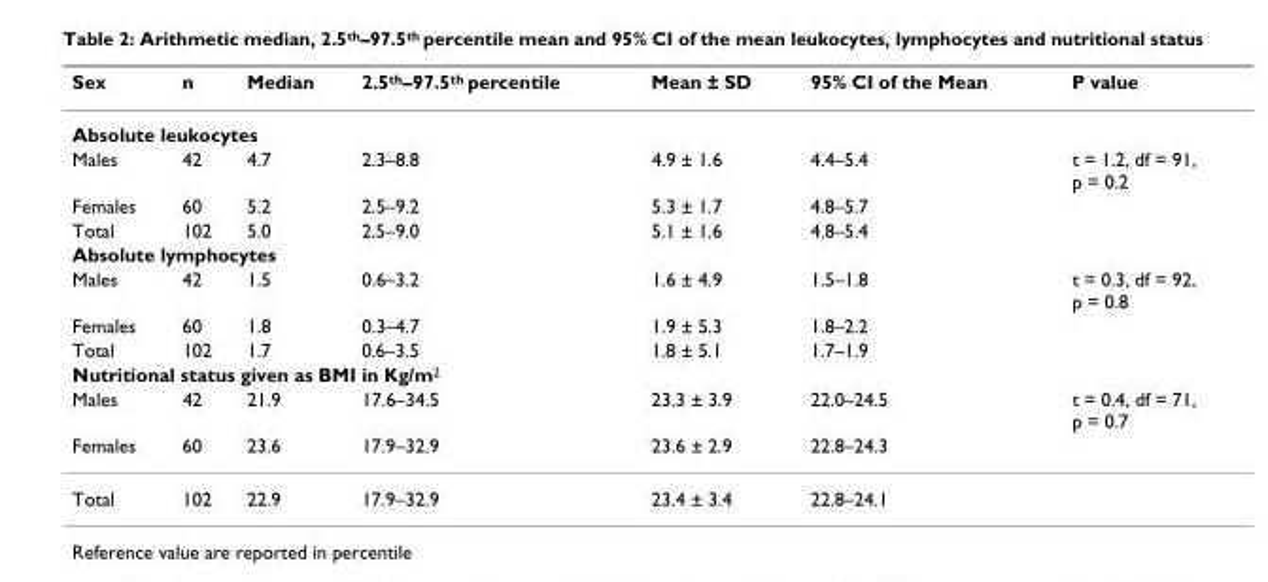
<table><thead><tr><td>Sex</td><td>n</td><td>Median</td><td>2.5<sup>th</sup>–97.5<sup>th</sup> percentile</td><td>Mean ± SD</td><td>95% CI of the Mean</td><td>P value</td></tr></thead><tbody><tr><td colspan="7">Absolute leukocytes</td></tr><tr><td>Males</td><td>42</td><td>4.7</td><td>2.3–8.8</td><td>4.9 ± 1.6</td><td>4.4–5.4</td><td>t = 1.2, df = 91, p = 0.2</td></tr><tr><td>Females</td><td>60</td><td>5.2</td><td>2.5–9.2</td><td>5.3 ± 1.7</td><td>4.8–5.7</td><td></td></tr><tr><td>Total</td><td>102</td><td>5.0</td><td>2.5–9.0</td><td>5.1 ± 1.6</td><td>4.8–5.4</td><td></td></tr><tr><td colspan="7">Absolute lymphocytes</td></tr><tr><td>Males</td><td>42</td><td>1.5</td><td>0.6–3.2</td><td>1.6 ± 4.9</td><td>1.5–1.8</td><td>t = 0.3, df = 92, p = 0.8</td></tr><tr><td>Females</td><td>60</td><td>1.8</td><td>0.3–4.7</td><td>1.9 ± 5.3</td><td>1.8–2.2</td><td></td></tr><tr><td>Total</td><td>102</td><td>1.7</td><td>0.6–3.5</td><td>1.8 ± 5.1</td><td>1.7–1.9</td><td></td></tr><tr><td colspan="7">Nutritional status given as BMI in Kg/m<sup>2</sup></td></tr><tr><td>Males</td><td>42</td><td>21.9</td><td>17.6–34.5</td><td>23.3 ± 3.9</td><td>22.0–24.5</td><td>t = 0.4, df = 71, p = 0.7</td></tr><tr><td>Females</td><td>60</td><td>23.6</td><td>17.9–32.9</td><td>23.6 ± 2.9</td><td>22.8–24.3</td><td></td></tr><tr><td>Total</td><td>102</td><td>22.9</td><td>17.9–32.9</td><td>23.4 ± 3.4</td><td>22.8–24.1</td><td></td></tr></tbody></table>